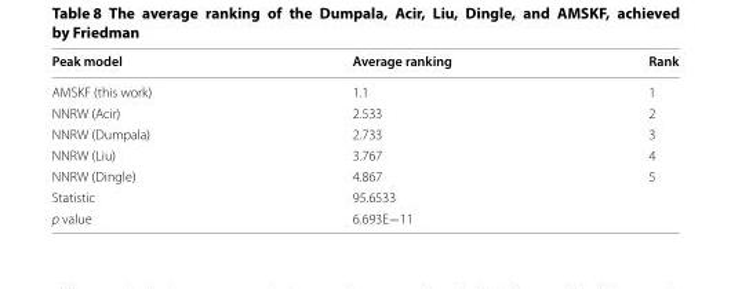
<table><thead><tr><td>Peak model</td><td>Average ranking</td><td>Rank</td></tr></thead><tbody><tr><td>AMSKF (this work)</td><td>1.1</td><td>1</td></tr><tr><td>NNRW (Acir)</td><td>2.533</td><td>2</td></tr><tr><td>NNRW (Dumpala)</td><td>2.733</td><td>3</td></tr><tr><td>NNRW (Liu)</td><td>3.767</td><td>4</td></tr><tr><td>NNRW (Dingle)</td><td>4.867</td><td>5</td></tr><tr><td>Statistic</td><td>95.6533</td><td></td></tr><tr><td>p value</td><td>6.693E−11</td><td></td></tr></tbody></table>